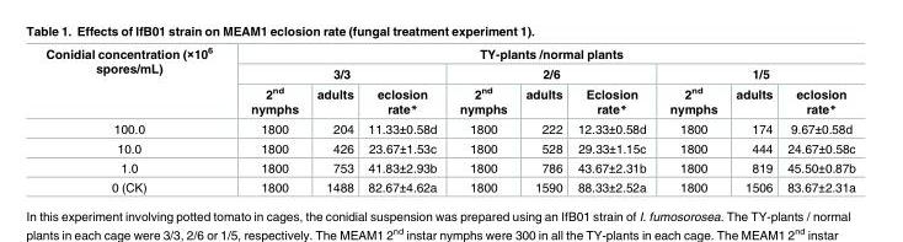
<table><thead><tr><td rowspan="3">Conidial concentration (×10<sup>6</sup> spores/mL)</td><td colspan="9">TY-plants /normal plants</td></tr><tr><td colspan="3">3/3</td><td colspan="3">2/6</td><td colspan="3">1/5</td></tr><tr><td>2<sup>nd</sup> nymphs</td><td>adults</td><td>eclosion rate*</td><td>2<sup>nd</sup> nymphs</td><td>adults</td><td>Eclosion rate*</td><td>2<sup>nd</sup> nymphs</td><td>adults</td><td>eclosion rate*</td></tr></thead><tbody><tr><td>100.0</td><td>1800</td><td>204</td><td>11.33±0.58d</td><td>1800</td><td>222</td><td>12.33±0.58d</td><td>1800</td><td>174</td><td>9.67±0.58d</td></tr><tr><td>10.0</td><td>1800</td><td>426</td><td>23.67±1.53c</td><td>1800</td><td>528</td><td>29.33±1.15c</td><td>1800</td><td>444</td><td>24.67±0.58c</td></tr><tr><td>1.0</td><td>1800</td><td>753</td><td>41.83±2.93b</td><td>1800</td><td>786</td><td>43.67±2.31b</td><td>1800</td><td>819</td><td>45.50±0.87b</td></tr><tr><td>0 (CK)</td><td>1800</td><td>1488</td><td>82.67±4.62a</td><td>1800</td><td>1590</td><td>88.33±2.52a</td><td>1800</td><td>1506</td><td>83.67±2.31a</td></tr></tbody></table>